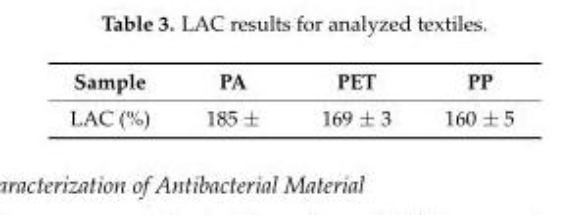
<table><thead><tr><td>Sample</td><td>PA</td><td>PET</td><td>PP</td></tr></thead><tbody><tr><td>LAC (%)</td><td>185 ±</td><td>169 ± 3</td><td>160 ± 5</td></tr></tbody></table>